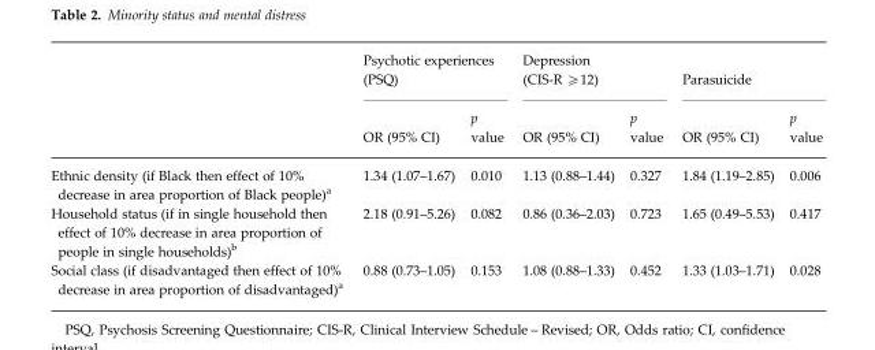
<table><thead><tr><td rowspan="2"></td><td colspan="2">Psychotic experiences (PSQ)</td><td colspan="2">Depression (CIS-R ⩾12)</td><td colspan="2">Parasuicide</td></tr><tr><td>OR (95% CI)</td><td>p value</td><td>OR (95% CI)</td><td>p value</td><td>OR (95% CI)</td><td>p value</td></tr></thead><tbody><tr><td>Ethnic density (if Black then effect of 10% decrease in area proportion of Black people)<sup>a</sup></td><td>1.34 (1.07–1.67)</td><td>0.010</td><td>1.13 (0.88–1.44)</td><td>0.327</td><td>1.84 (1.19–2.85)</td><td>0.006</td></tr><tr><td>Household status (if in single household then effect of 10% decrease in area proportion of people in single households)<sup>b</sup></td><td>2.18 (0.91–5.26)</td><td>0.082</td><td>0.86 (0.36–2.03)</td><td>0.723</td><td>1.65 (0.49–5.53)</td><td>0.417</td></tr><tr><td>Social class (if disadvantaged then effect of 10% decrease in area proportion of disadvantaged)<sup>a</sup></td><td>0.88 (0.73–1.05)</td><td>0.153</td><td>1.08 (0.88–1.33)</td><td>0.452</td><td>1.33 (1.03–1.71)</td><td>0.028</td></tr></tbody></table>